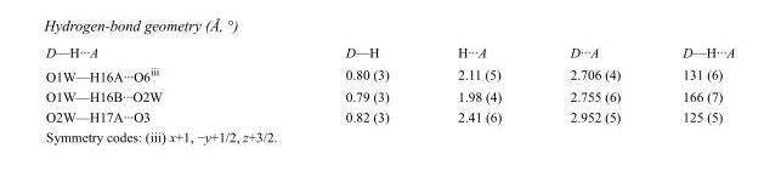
<table><tbody><tr><td>D—H···A</td><td>D—H</td><td>H···A</td><td>D···A</td><td>D—H···A</td></tr><tr><td>O1W—H16A···O6<sup>iii</sup></td><td>0.80 (3)</td><td>2.11 (5)</td><td>2.706 (4)</td><td>131 (6)</td></tr><tr><td>O1W—H16B···O2W</td><td>0.79 (3)</td><td>1.98 (4)</td><td>2.755 (6)</td><td>166 (7)</td></tr><tr><td>O2W—H17A···O3</td><td>0.82 (3)</td><td>2.41 (6)</td><td>2.952 (5)</td><td>125 (5)</td></tr></tbody></table>